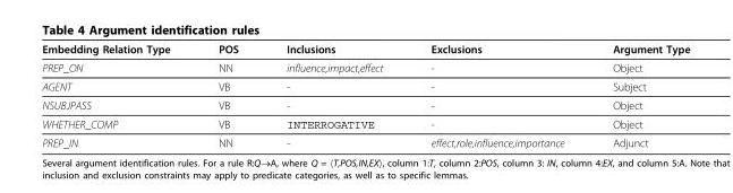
<table><thead><tr><td>Embedding Relation Type</td><td>POS</td><td>Inclusions</td><td>Exclusions</td><td>Argument Type</td></tr></thead><tbody><tr><td>PREP_ON</td><td>NN</td><td>influence,impact,effect</td><td>-</td><td>Object</td></tr><tr><td>AGENT</td><td>VB</td><td>-</td><td>-</td><td>Subject</td></tr><tr><td>NSUBJPASS</td><td>VB</td><td>-</td><td>-</td><td>Object</td></tr><tr><td>WHETHER_COMP</td><td>VB</td><td>INTERROGATIVE</td><td>-</td><td>Object</td></tr><tr><td>PREP_IN</td><td>NN</td><td>-</td><td>effect,role,influence,importance</td><td>Adjunct</td></tr></tbody></table>